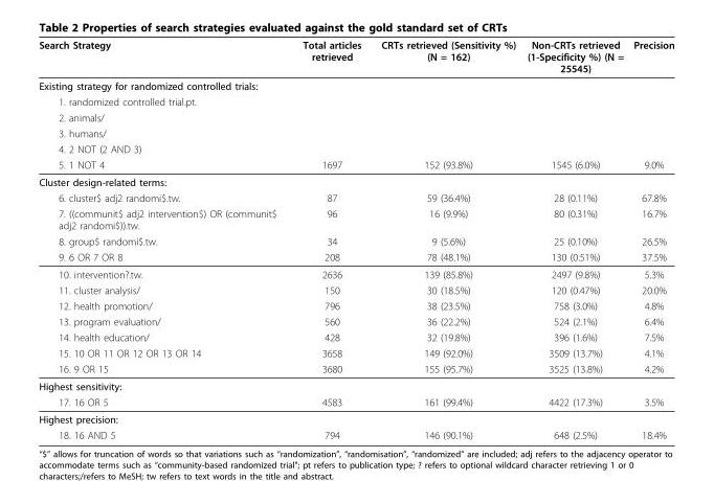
<table><thead><tr><td>Search Strategy</td><td>Total articles retrieved</td><td>CRTs retrieved (Sensitivity %) (N = 162)</td><td>Non-CRTs retrieved (1-Specificity %) (N = 25545)</td><td>Precision</td></tr></thead><tbody><tr><td colspan="5">Existing strategy for randomized controlled trials:</td></tr><tr><td colspan="5">1. randomized controlled trial.pt.</td></tr><tr><td colspan="5">2. animals/</td></tr><tr><td colspan="5">3. humans/</td></tr><tr><td colspan="5">4. 2 NOT (2 AND 3)</td></tr><tr><td>5. 1 NOT 4</td><td>1697</td><td>152 (93.8%)</td><td>1545 (6.0%)</td><td>9.0%</td></tr><tr><td colspan="5">Cluster design-related terms:</td></tr><tr><td>6. cluster$ adj2 randomi$.tw.</td><td>87</td><td>59 (36.4%)</td><td>28 (0.11%)</td><td>67.8%</td></tr><tr><td>7. ((communit$ adj2 intervention$) OR (communit$ adj2 randomi$)).tw.</td><td>96</td><td>16 (9.9%)</td><td>80 (0.31%)</td><td>16.7%</td></tr><tr><td>8. group$ randomi$.tw.</td><td>34</td><td>9 (5.6%)</td><td>25 (0.10%)</td><td>26.5%</td></tr><tr><td>9. 6 OR 7 OR 8</td><td>208</td><td>78 (48.1%)</td><td>130 (0.51%)</td><td>37.5%</td></tr><tr><td>10. intervention?.tw.</td><td>2636</td><td>139 (85.8%)</td><td>2497 (9.8%)</td><td>5.3%</td></tr><tr><td>11. cluster analysis/</td><td>150</td><td>30 (18.5%)</td><td>120 (0.47%)</td><td>20.0%</td></tr><tr><td>12. health promotion/</td><td>796</td><td>38 (23.5%)</td><td>758 (3.0%)</td><td>4.8%</td></tr><tr><td>13. program evaluation/</td><td>560</td><td>36 (22.2%)</td><td>524 (2.1%)</td><td>6.4%</td></tr><tr><td>14. health education/</td><td>428</td><td>32 (19.8%)</td><td>396 (1.6%)</td><td>7.5%</td></tr><tr><td>15. 10 OR 11 OR 12 OR 13 OR 14</td><td>3658</td><td>149 (92.0%)</td><td>3509 (13.7%)</td><td>4.1%</td></tr><tr><td>16. 9 OR 15</td><td>3680</td><td>155 (95.7%)</td><td>3525 (13.8%)</td><td>4.2%</td></tr><tr><td colspan="5">Highest sensitivity:</td></tr><tr><td>17. 16 OR 5</td><td>4583</td><td>161 (99.4%)</td><td>4422 (17.3%)</td><td>3.5%</td></tr><tr><td colspan="5">Highest precision:</td></tr><tr><td>18. 16 AND 5</td><td>794</td><td>146 (90.1%)</td><td>648 (2.5%)</td><td>18.4%</td></tr></tbody></table>